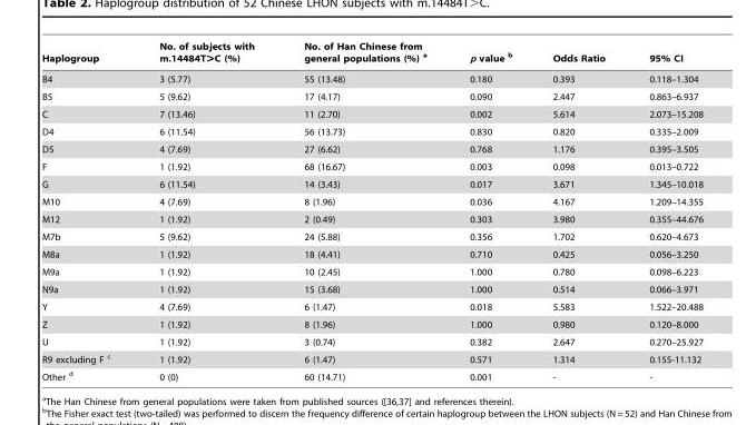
<table><thead><tr><td>Haplogroup</td><td>No. of subjects with m.14484T&gt;C (%)</td><td>No. of Han Chinese from general populations (%) a</td><td>p value b</td><td>Odds Ratio</td><td>95% CI</td></tr></thead><tbody><tr><td>B4</td><td>3 (5.77)</td><td>55 (13.48)</td><td>0.180</td><td>0.393</td><td>0.118–1.304</td></tr><tr><td>B5</td><td>5 (9.62)</td><td>17 (4.17)</td><td>0.090</td><td>2.447</td><td>0.863–6.937</td></tr><tr><td>C</td><td>7 (13.46)</td><td>11 (2.70)</td><td>0.002</td><td>5.614</td><td>2.073–15.208</td></tr><tr><td>D4</td><td>6 (11.54)</td><td>56 (13.73)</td><td>0.830</td><td>0.820</td><td>0.335–2.009</td></tr><tr><td>D5</td><td>4 (7.69)</td><td>27 (6.62)</td><td>0.768</td><td>1.176</td><td>0.395–3.505</td></tr><tr><td>F</td><td>1 (1.92)</td><td>68 (16.67)</td><td>0.003</td><td>0.098</td><td>0.013–0.722</td></tr><tr><td>G</td><td>6 (11.54)</td><td>14 (3.43)</td><td>0.017</td><td>3.671</td><td>1.345–10.018</td></tr><tr><td>M10</td><td>4 (7.69)</td><td>8 (1.96)</td><td>0.036</td><td>4.167</td><td>1.209–14.355</td></tr><tr><td>M12</td><td>1 (1.92)</td><td>2 (0.49)</td><td>0.303</td><td>3.980</td><td>0.355–44.676</td></tr><tr><td>M7b</td><td>5 (9.62)</td><td>24 (5.88)</td><td>0.356</td><td>1.702</td><td>0.620–4.673</td></tr><tr><td>M8a</td><td>1 (1.92)</td><td>18 (4.41)</td><td>0.710</td><td>0.425</td><td>0.056–3.250</td></tr><tr><td>M9a</td><td>1 (1.92)</td><td>10 (2.45)</td><td>1.000</td><td>0.780</td><td>0.098–6.223</td></tr><tr><td>N9a</td><td>1 (1.92)</td><td>15 (3.68)</td><td>1.000</td><td>0.514</td><td>0.066–3.971</td></tr><tr><td>Y</td><td>4 (7.69)</td><td>6 (1.47)</td><td>0.018</td><td>5.583</td><td>1.522–20.488</td></tr><tr><td>Z</td><td>1 (1.92)</td><td>8 (1.96)</td><td>1.000</td><td>0.980</td><td>0.120–8.000</td></tr><tr><td>U</td><td>1 (1.92)</td><td>3 (0.74)</td><td>0.382</td><td>2.647</td><td>0.270–25.927</td></tr><tr><td>R9 excluding F c</td><td>1 (1.92)</td><td>6 (1.47)</td><td>0.571</td><td>1.314</td><td>0.155-11.132</td></tr><tr><td>Other d</td><td>0 (0)</td><td>60 (14.71)</td><td>0.001</td><td>-</td><td>-</td></tr></tbody></table>